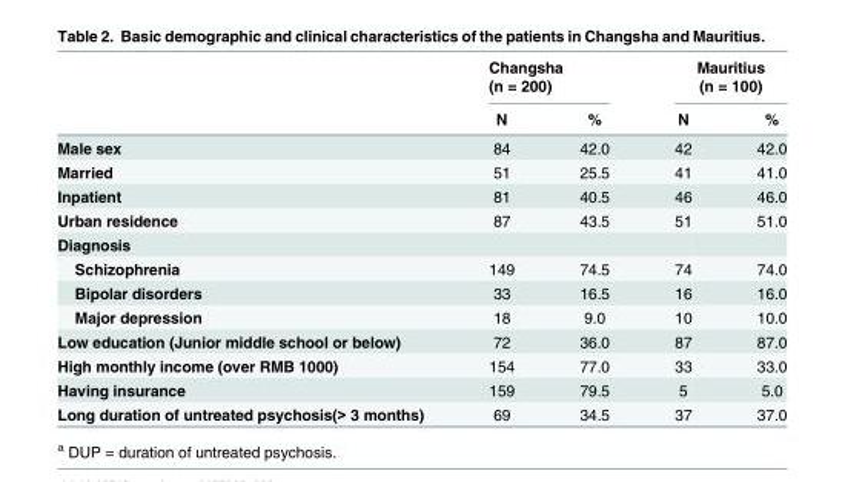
<table><thead><tr><td rowspan="2"></td><td colspan="2">Changsha (n = 200)</td><td colspan="2">Mauritius (n = 100)</td></tr><tr><td>N</td><td>%</td><td>N</td><td>%</td></tr></thead><tbody><tr><td>Male sex</td><td>84</td><td>42.0</td><td>42</td><td>42.0</td></tr><tr><td>Married</td><td>51</td><td>25.5</td><td>41</td><td>41.0</td></tr><tr><td>Inpatient</td><td>81</td><td>40.5</td><td>46</td><td>46.0</td></tr><tr><td>Urban residence</td><td>87</td><td>43.5</td><td>51</td><td>51.0</td></tr><tr><td colspan="5">Diagnosis</td></tr><tr><td>Schizophrenia</td><td>149</td><td>74.5</td><td>74</td><td>74.0</td></tr><tr><td>Bipolar disorders</td><td>33</td><td>16.5</td><td>16</td><td>16.0</td></tr><tr><td>Major depression</td><td>18</td><td>9.0</td><td>10</td><td>10.0</td></tr><tr><td>Low education (Junior middle school or below)</td><td>72</td><td>36.0</td><td>87</td><td>87.0</td></tr><tr><td>High monthly income (over RMB 1000)</td><td>154</td><td>77.0</td><td>33</td><td>33.0</td></tr><tr><td>Having insurance</td><td>159</td><td>79.5</td><td>5</td><td>5.0</td></tr><tr><td>Long duration of untreated psychosis(&gt; 3 months)</td><td>69</td><td>34.5</td><td>37</td><td>37.0</td></tr></tbody></table>